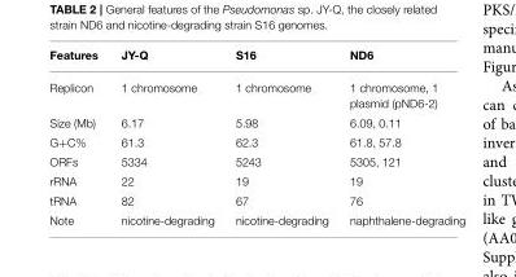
<table><thead><tr><td>Features</td><td>JY-Q</td><td>S16</td><td>ND6</td></tr></thead><tbody><tr><td>Replicon</td><td>1 chromosome</td><td>1 chromosome</td><td>1 chromosome, 1 plasmid (pND6-2)</td></tr><tr><td>Size (Mb)</td><td>6.17</td><td>5.98</td><td>6.09, 0.11</td></tr><tr><td>G+C%</td><td>61.3</td><td>62.3</td><td>61.8, 57.8</td></tr><tr><td>ORFs</td><td>5334</td><td>5243</td><td>5305, 121</td></tr><tr><td>rRNA</td><td>22</td><td>19</td><td>19</td></tr><tr><td>tRNA</td><td>82</td><td>67</td><td>76</td></tr><tr><td>Note</td><td>nicotine-degrading</td><td>nicotine-degrading</td><td>naphthalene-degrading</td></tr></tbody></table>